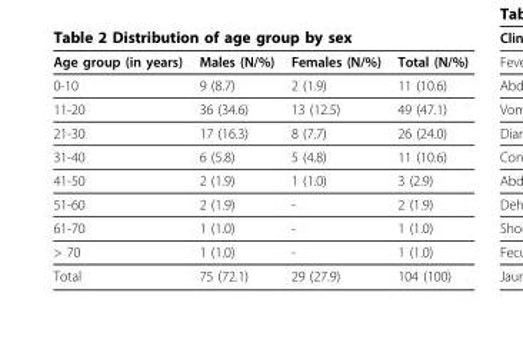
<table><thead><tr><td>Age group (in years)</td><td>Males (N/%)</td><td>Females (N/%)</td><td>Total (N/%)</td></tr></thead><tbody><tr><td>0-10</td><td>9 (8.7)</td><td>2 (1.9)</td><td>11 (10.6)</td></tr><tr><td>11-20</td><td>36 (34.6)</td><td>13 (12.5)</td><td>49 (47.1)</td></tr><tr><td>21-30</td><td>17 (16.3)</td><td>8 (7.7)</td><td>26 (24.0)</td></tr><tr><td>31-40</td><td>6 (5.8)</td><td>5 (4.8)</td><td>11 (10.6)</td></tr><tr><td>41-50</td><td>2 (1.9)</td><td>1 (1.0)</td><td>3 (2.9)</td></tr><tr><td>51-60</td><td>2 (1.9)</td><td>-</td><td>2 (1.9)</td></tr><tr><td>61-70</td><td>1 (1.0)</td><td>-</td><td>1 (1.0)</td></tr><tr><td>&gt; 70</td><td>1 (1.0)</td><td>-</td><td>1 (1.0)</td></tr><tr><td>Total</td><td>75 (72.1)</td><td>29 (27.9)</td><td>104 (100)</td></tr></tbody></table>